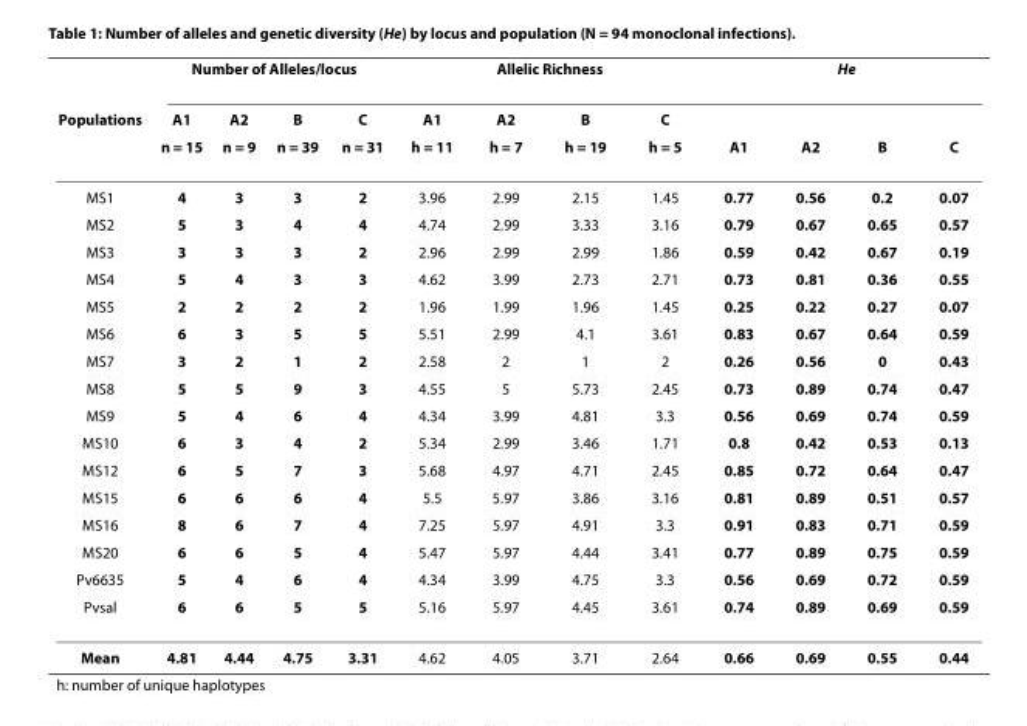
<table><thead><tr><td rowspan="3">Populations</td><td colspan="4">Number of Alleles/locus</td><td colspan="4">Allelic Richness</td><td colspan="4">He</td></tr><tr><td rowspan="2">A1 n = 15</td><td rowspan="2">A2 n = 9</td><td rowspan="2">B n = 39</td><td rowspan="2">C n = 31</td><td rowspan="2">A1 h = 11</td><td rowspan="2">A2 h = 7</td><td rowspan="2">B h = 19</td><td rowspan="2">C h = 5</td><td rowspan="2">A1</td><td rowspan="2">A2</td><td rowspan="2">B</td><td rowspan="2">C</td></tr><tr></tr></thead><tbody><tr><td>MS1</td><td>4</td><td>3</td><td>3</td><td>2</td><td>3.96</td><td>2.99</td><td>2.15</td><td>1.45</td><td>0.77</td><td>0.56</td><td>0.2</td><td>0.07</td></tr><tr><td>MS2</td><td>5</td><td>3</td><td>4</td><td>4</td><td>4.74</td><td>2.99</td><td>3.33</td><td>3.16</td><td>0.79</td><td>0.67</td><td>0.65</td><td>0.57</td></tr><tr><td>MS3</td><td>3</td><td>3</td><td>3</td><td>2</td><td>2.96</td><td>2.99</td><td>2.99</td><td>1.86</td><td>0.59</td><td>0.42</td><td>0.67</td><td>0.19</td></tr><tr><td>MS4</td><td>5</td><td>4</td><td>3</td><td>3</td><td>4.62</td><td>3.99</td><td>2.73</td><td>2.71</td><td>0.73</td><td>0.81</td><td>0.36</td><td>0.55</td></tr><tr><td>MS5</td><td>2</td><td>2</td><td>2</td><td>2</td><td>1.96</td><td>1.99</td><td>1.96</td><td>1.45</td><td>0.25</td><td>0.22</td><td>0.27</td><td>0.07</td></tr><tr><td>MS6</td><td>6</td><td>3</td><td>5</td><td>5</td><td>5.51</td><td>2.99</td><td>4.1</td><td>3.61</td><td>0.83</td><td>0.67</td><td>0.64</td><td>0.59</td></tr><tr><td>MS7</td><td>3</td><td>2</td><td>1</td><td>2</td><td>2.58</td><td>2</td><td>1</td><td>2</td><td>0.26</td><td>0.56</td><td>0</td><td>0.43</td></tr><tr><td>MS8</td><td>5</td><td>5</td><td>9</td><td>3</td><td>4.55</td><td>5</td><td>5.73</td><td>2.45</td><td>0.73</td><td>0.89</td><td>0.74</td><td>0.47</td></tr><tr><td>MS9</td><td>5</td><td>4</td><td>6</td><td>4</td><td>4.34</td><td>3.99</td><td>4.81</td><td>3.3</td><td>0.56</td><td>0.69</td><td>0.74</td><td>0.59</td></tr><tr><td>MS10</td><td>6</td><td>3</td><td>4</td><td>2</td><td>5.34</td><td>2.99</td><td>3.46</td><td>1.71</td><td>0.8</td><td>0.42</td><td>0.53</td><td>0.13</td></tr><tr><td>MS12</td><td>6</td><td>5</td><td>7</td><td>3</td><td>5.68</td><td>4.97</td><td>4.71</td><td>2.45</td><td>0.85</td><td>0.72</td><td>0.64</td><td>0.47</td></tr><tr><td>MS15</td><td>6</td><td>6</td><td>6</td><td>4</td><td>5.5</td><td>5.97</td><td>3.86</td><td>3.16</td><td>0.81</td><td>0.89</td><td>0.51</td><td>0.57</td></tr><tr><td>MS16</td><td>8</td><td>6</td><td>7</td><td>4</td><td>7.25</td><td>5.97</td><td>4.91</td><td>3.3</td><td>0.91</td><td>0.83</td><td>0.71</td><td>0.59</td></tr><tr><td>MS20</td><td>6</td><td>6</td><td>5</td><td>4</td><td>5.47</td><td>5.97</td><td>4.44</td><td>3.41</td><td>0.77</td><td>0.89</td><td>0.75</td><td>0.59</td></tr><tr><td>Pv6635</td><td>5</td><td>4</td><td>6</td><td>4</td><td>4.34</td><td>3.99</td><td>4.75</td><td>3.3</td><td>0.56</td><td>0.69</td><td>0.72</td><td>0.59</td></tr><tr><td>Pvsal</td><td>6</td><td>6</td><td>5</td><td>5</td><td>5.16</td><td>5.97</td><td>4.45</td><td>3.61</td><td>0.74</td><td>0.89</td><td>0.69</td><td>0.59</td></tr><tr><td>Mean</td><td>4.81</td><td>4.44</td><td>4.75</td><td>3.31</td><td>4.62</td><td>4.05</td><td>3.71</td><td>2.64</td><td>0.66</td><td>0.69</td><td>0.55</td><td>0.44</td></tr></tbody></table>